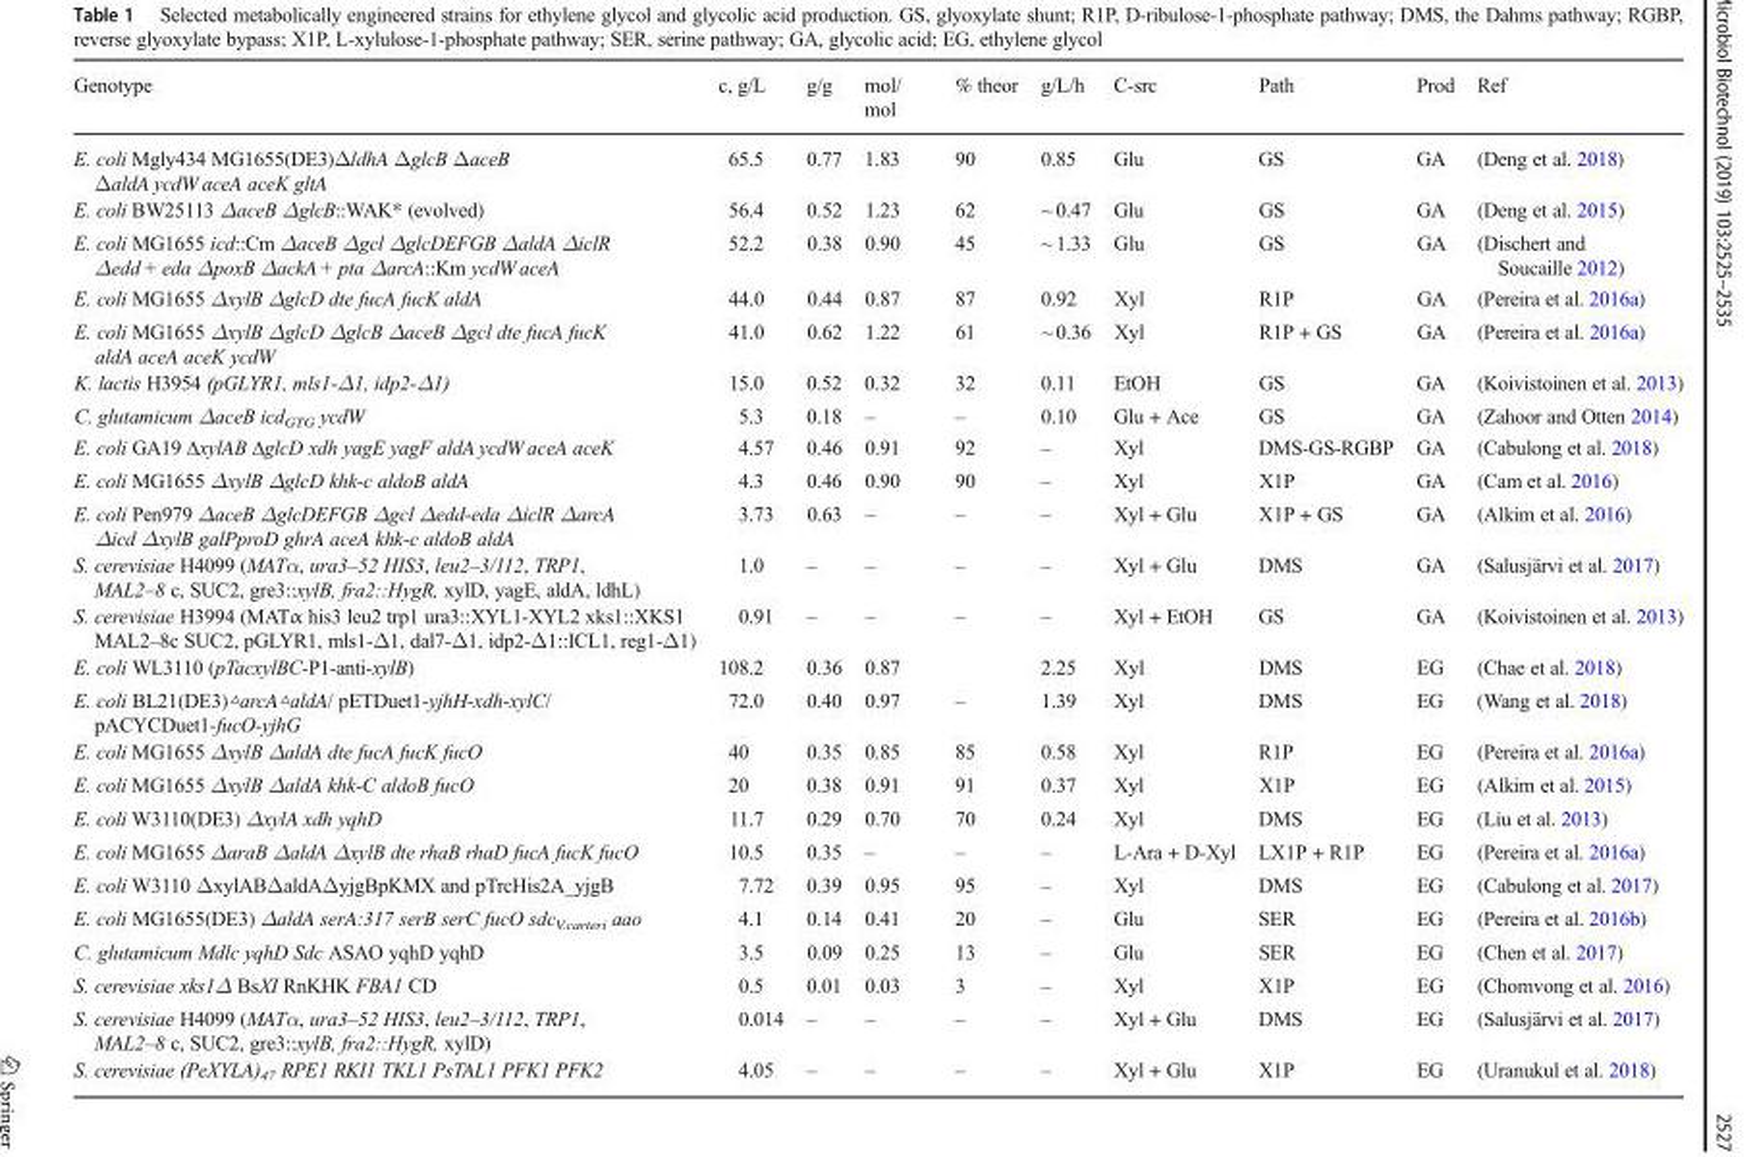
<table><thead><tr><td>Genotype</td><td>c, g/L</td><td>g/g</td><td>mol/ mol</td><td>% theor</td><td>g/L/h</td><td>C-src</td><td>Path</td><td>Prod</td><td>Ref</td></tr></thead><tbody><tr><td>E. coli Mgly434 MG1655(DE3)ΔldhA ΔglcB ΔaceB ΔaldA ycdW aceA aceK gltA</td><td>65.5</td><td>0.77</td><td>1.83</td><td>90</td><td>0.85</td><td>Glu</td><td>GS</td><td>GA</td><td>(Deng et al. 2018)</td></tr><tr><td>E. coli BW25113 ΔaceB ΔglcB::WAK* (evolved)</td><td>56.4</td><td>0.52</td><td>1.23</td><td>62</td><td>~ 0.47</td><td>Glu</td><td>GS</td><td>GA</td><td>(Deng et al. 2015)</td></tr><tr><td>E. coli MG1655 icd::Cm ΔaceB Δgcl ΔglcDEFGB ΔaldA ΔiclR Δedd + eda ΔpoxB ΔackA + pta ΔarcA::Km ycdW aceA</td><td>52.2</td><td>0.38</td><td>0.90</td><td>45</td><td>~ 1.33</td><td>Glu</td><td>GS</td><td>GA</td><td>(Dischert and Soucaille 2012)</td></tr><tr><td>E. coli MG1655 ΔxylB ΔglcD dte fucA fucK aldA</td><td>44.0</td><td>0.44</td><td>0.87</td><td>87</td><td>0.92</td><td>Xyl</td><td>R1P</td><td>GA</td><td>(Pereira et al. 2016a)</td></tr><tr><td>E. coli MG1655 ΔxylB ΔglcD ΔglcB ΔaceB Δgcl dte fucA fucK aldA aceA aceK ycdW</td><td>41.0</td><td>0.62</td><td>1.22</td><td>61</td><td>~ 0.36</td><td>Xyl</td><td>R1P + GS</td><td>GA</td><td>(Pereira et al. 2016a)</td></tr><tr><td>K. lactis H3954 (pGLYR1, mls1-Δ1, idp2-Δ1)</td><td>15.0</td><td>0.52</td><td>0.32</td><td>32</td><td>0.11</td><td>EtOH</td><td>GS</td><td>GA</td><td>(Koivistoinen et al. 2013)</td></tr><tr><td>C. glutamicum ΔaceB icd<sub>GTG</sub> ycdW</td><td>5.3</td><td>0.18</td><td>–</td><td>–</td><td>0.10</td><td>Glu + Ace</td><td>GS</td><td>GA</td><td>(Zahoor and Otten 2014)</td></tr><tr><td>E. coli GA19 ΔxylAB ΔglcD xdh yagE yagF aldA ycdW aceA aceK</td><td>4.57</td><td>0.46</td><td>0.91</td><td>92</td><td>–</td><td>Xyl</td><td>DMS-GS-RGBP</td><td>GA</td><td>(Cabulong et al. 2018)</td></tr><tr><td>E. coli MG1655 ΔxylB ΔglcD khk-c aldoB aldA</td><td>4.3</td><td>0.46</td><td>0.90</td><td>90</td><td>–</td><td>Xyl</td><td>X1P</td><td>GA</td><td>(Cam et al. 2016)</td></tr><tr><td>E. coli Pen979 ΔaceB ΔglcDEFGB Δgcl Δedd-eda ΔiclR ΔarcA Δicd ΔxylB galPproD ghrA aceA khk-c aldoB aldA</td><td>3.73</td><td>0.63</td><td>–</td><td>–</td><td>–</td><td>Xyl + Glu</td><td>X1P + GS</td><td>GA</td><td>(Alkim et al. 2016)</td></tr><tr><td>S. cerevisiae H4099 (MATα, ura3–52 HIS3, leu2–3/112, TRP1, MAL2–8 c, SUC2, gre3::xylB, fra2::HygR, xylD, yagE, aldA, ldhL)</td><td>1.0</td><td>–</td><td>–</td><td>–</td><td>–</td><td>Xyl + Glu</td><td>DMS</td><td>GA</td><td>(Salusjärvi et al. 2017)</td></tr><tr><td>S. cerevisiae H3994 (MATα his3 leu2 trp1 ura3::XYL1-XYL2 xks1::XKS1 MAL2–8c SUC2, pGLYR1, mls1-Δ1, dal7-Δ1, idp2-Δ1::ICL1, reg1-Δ1)</td><td>0.91</td><td>–</td><td>–</td><td>–</td><td>–</td><td>Xyl + EtOH</td><td>GS</td><td>GA</td><td>(Koivistoinen et al. 2013)</td></tr><tr><td>E. coli WL3110 (pTacxylBC-P1-anti-xylB)</td><td>108.2</td><td>0.36</td><td>0.87</td><td></td><td>2.25</td><td>Xyl</td><td>DMS</td><td>EG</td><td>(Chae et al. 2018)</td></tr><tr><td>E. coli BL21(DE3)△arcA△aldA/ pETDuet1-yjhH-xdh-xylC/ pACYCDuet1-fucO-yjhG</td><td>72.0</td><td>0.40</td><td>0.97</td><td>–</td><td>1.39</td><td>Xyl</td><td>DMS</td><td>EG</td><td>(Wang et al. 2018)</td></tr><tr><td>E. coli MG1655 ΔxylB ΔaldA dte fucA fucK fucO</td><td>40</td><td>0.35</td><td>0.85</td><td>85</td><td>0.58</td><td>Xyl</td><td>R1P</td><td>EG</td><td>(Pereira et al. 2016a)</td></tr><tr><td>E. coli MG1655 ΔxylB ΔaldA khk-C aldoB fucO</td><td>20</td><td>0.38</td><td>0.91</td><td>91</td><td>0.37</td><td>Xyl</td><td>X1P</td><td>EG</td><td>(Alkim et al. 2015)</td></tr><tr><td>E. coli W3110(DE3) ΔxylA xdh yqhD</td><td>11.7</td><td>0.29</td><td>0.70</td><td>70</td><td>0.24</td><td>Xyl</td><td>DMS</td><td>EG</td><td>(Liu et al. 2013)</td></tr><tr><td>E. coli MG1655 ΔaraB ΔaldA ΔxylB dte rhaB rhaD fucA fucK fucO</td><td>10.5</td><td>0.35</td><td>–</td><td>–</td><td>–</td><td>L-Ara + D-Xyl</td><td>LX1P + R1P</td><td>EG</td><td>(Pereira et al. 2016a)</td></tr><tr><td>E. coli W3110 ΔxylABΔaldAΔyjgBpKMX and pTrcHis2A_yjgB</td><td>7.72</td><td>0.39</td><td>0.95</td><td>95</td><td>–</td><td>Xyl</td><td>DMS</td><td>EG</td><td>(Cabulong et al. 2017)</td></tr><tr><td>E. coli MG1655(DE3) ΔaldA serA:317 serB serC fucO sdc<sub>V.carteri</sub> aao</td><td>4.1</td><td>0.14</td><td>0.41</td><td>20</td><td>–</td><td>Glu</td><td>SER</td><td>EG</td><td>(Pereira et al. 2016b)</td></tr><tr><td>C. glutamicum Mdlc yqhD Sdc ASAO yqhD yqhD</td><td>3.5</td><td>0.09</td><td>0.25</td><td>13</td><td>–</td><td>Glu</td><td>SER</td><td>EG</td><td>(Chen et al. 2017)</td></tr><tr><td>S. cerevisiae xks1Δ BsXI RnKHK FBA1 CD</td><td>0.5</td><td>0.01</td><td>0.03</td><td>3</td><td>–</td><td>Xyl</td><td>X1P</td><td>EG</td><td>(Chomvong et al. 2016)</td></tr><tr><td>S. cerevisiae H4099 (MATα, ura3–52 HIS3, leu2–3/112, TRP1, MAL2–8 c, SUC2, gre3::xylB, fra2::HygR, xylD)</td><td>0.014</td><td>–</td><td>–</td><td>–</td><td>–</td><td>Xyl + Glu</td><td>DMS</td><td>EG</td><td>(Salusjärvi et al. 2017)</td></tr><tr><td>S. cerevisiae (PeXYLA)<sub>47</sub> RPE1 RKI1 TKL1 PsTAL1 PFK1 PFK2</td><td>4.05</td><td>–</td><td>–</td><td>–</td><td>–</td><td>Xyl + Glu</td><td>X1P</td><td>EG</td><td>(Uranukul et al. 2018)</td></tr></tbody></table>